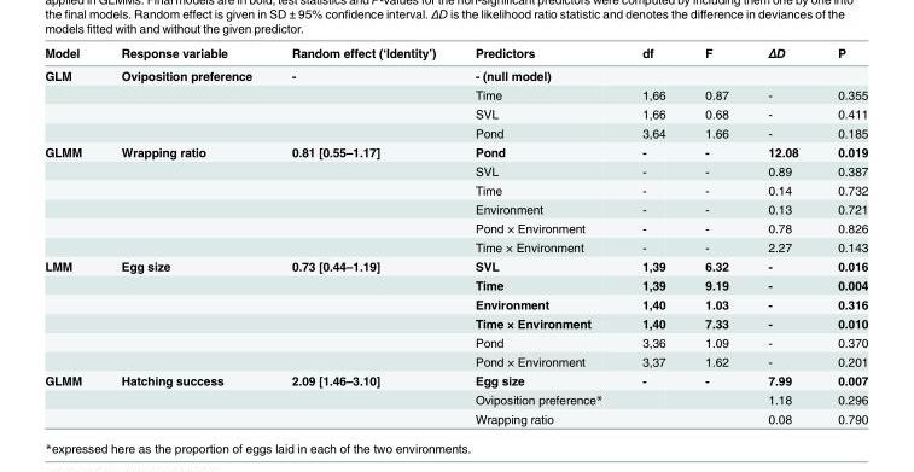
<table><thead><tr><td>Model</td><td>Response variable</td><td>Random effect (‘Identity’)</td><td>Predictors</td><td>df</td><td>F</td><td>ΔD</td><td>P</td></tr></thead><tbody><tr><td rowspan="4">GLM</td><td>Oviposition preference</td><td>-</td><td>- (null model)</td><td></td><td></td><td></td><td></td></tr><tr><td></td><td></td><td>Time</td><td>1,66</td><td>0.87</td><td>-</td><td>0.355</td></tr><tr><td></td><td></td><td>SVL</td><td>1,66</td><td>0.68</td><td>-</td><td>0.411</td></tr><tr><td></td><td></td><td>Pond</td><td>3,64</td><td>1.66</td><td>-</td><td>0.185</td></tr><tr><td rowspan="6">GLMM</td><td>Wrapping ratio</td><td>0.81 [0.55–1.17]</td><td>Pond</td><td>-</td><td>-</td><td>12.08</td><td>0.019</td></tr><tr><td></td><td></td><td>SVL</td><td>-</td><td>-</td><td>0.89</td><td>0.387</td></tr><tr><td></td><td></td><td>Time</td><td>-</td><td>-</td><td>0.14</td><td>0.732</td></tr><tr><td></td><td></td><td>Environment</td><td>-</td><td>-</td><td>0.13</td><td>0.721</td></tr><tr><td></td><td></td><td>Pond × Environment</td><td>-</td><td>-</td><td>0.78</td><td>0.826</td></tr><tr><td></td><td></td><td>Time × Environment</td><td>-</td><td>-</td><td>2.27</td><td>0.143</td></tr><tr><td rowspan="6">LMM</td><td>Egg size</td><td>0.73 [0.44–1.19]</td><td>SVL</td><td>1,39</td><td>6.32</td><td>-</td><td>0.016</td></tr><tr><td></td><td></td><td>Time</td><td>1,39</td><td>9.19</td><td>-</td><td>0.004</td></tr><tr><td></td><td></td><td>Environment</td><td>1,40</td><td>1.03</td><td>-</td><td>0.316</td></tr><tr><td></td><td></td><td>Time × Environment</td><td>1,40</td><td>7.33</td><td>-</td><td>0.010</td></tr><tr><td></td><td></td><td>Pond</td><td>3,36</td><td>1.09</td><td>-</td><td>0.370</td></tr><tr><td></td><td></td><td>Pond × Environment</td><td>3,37</td><td>1.62</td><td>-</td><td>0.201</td></tr><tr><td rowspan="3">GLMM</td><td>Hatching success</td><td>2.09 [1.46–3.10]</td><td>Egg size</td><td>-</td><td>-</td><td>7.99</td><td>0.007</td></tr><tr><td></td><td></td><td>Oviposition preference*</td><td></td><td></td><td>1.18</td><td>0.296</td></tr><tr><td></td><td></td><td>Wrapping ratio</td><td></td><td></td><td>0.08</td><td>0.790</td></tr></tbody></table>